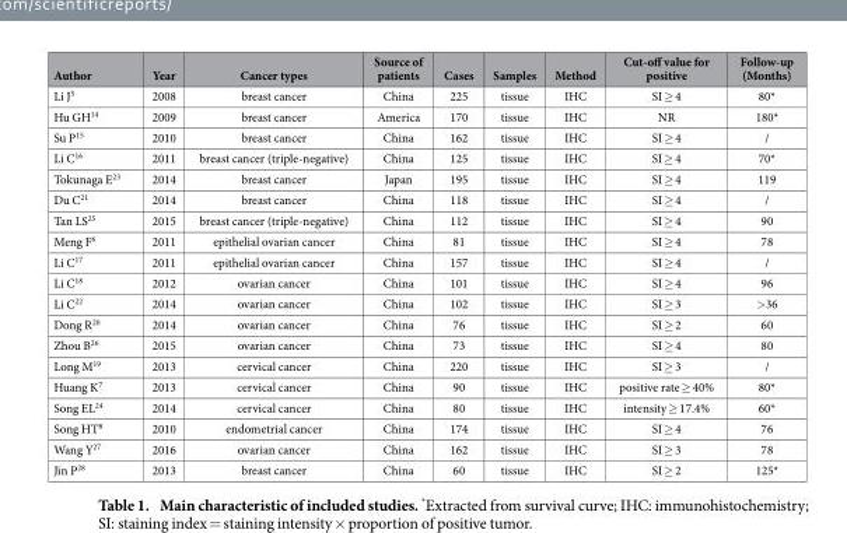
<table><thead><tr><td>Author</td><td>Year</td><td>Cancer types</td><td>Source of patients</td><td>Cases</td><td>Samples</td><td>Method</td><td>Cut-off value for positive</td><td>Follow-up (Months)</td></tr></thead><tbody><tr><td>Li J<sup>5</sup></td><td>2008</td><td>breast cancer</td><td>China</td><td>225</td><td>tissue</td><td>IHC</td><td>SI ≥ 4</td><td>80*</td></tr><tr><td>Hu GH<sup>14</sup></td><td>2009</td><td>breast cancer</td><td>America</td><td>170</td><td>tissue</td><td>IHC</td><td>NR</td><td>180*</td></tr><tr><td>Su P<sup>15</sup></td><td>2010</td><td>breast cancer</td><td>China</td><td>162</td><td>tissue</td><td>IHC</td><td>SI ≥ 4</td><td>/</td></tr><tr><td>Li C<sup>16</sup></td><td>2011</td><td>breast cancer (triple-negative)</td><td>China</td><td>125</td><td>tissue</td><td>IHC</td><td>SI ≥ 4</td><td>70*</td></tr><tr><td>Tokunaga E<sup>23</sup></td><td>2014</td><td>breast cancer</td><td>Japan</td><td>195</td><td>tissue</td><td>IHC</td><td>SI ≥ 4</td><td>119</td></tr><tr><td>Du C<sup>21</sup></td><td>2014</td><td>breast cancer</td><td>China</td><td>118</td><td>tissue</td><td>IHC</td><td>SI ≥ 4</td><td>/</td></tr><tr><td>Tan LS<sup>25</sup></td><td>2015</td><td>breast cancer (triple-negative)</td><td>China</td><td>112</td><td>tissue</td><td>IHC</td><td>SI ≥ 4</td><td>90</td></tr><tr><td>Meng F<sup>6</sup></td><td>2011</td><td>epithelial ovarian cancer</td><td>China</td><td>81</td><td>tissue</td><td>IHC</td><td>SI ≥ 4</td><td>78</td></tr><tr><td>Li C<sup>17</sup></td><td>2011</td><td>epithelial ovarian cancer</td><td>China</td><td>157</td><td>tissue</td><td>IHC</td><td>SI ≥ 4</td><td>/</td></tr><tr><td>Li C<sup>18</sup></td><td>2012</td><td>ovarian cancer</td><td>China</td><td>101</td><td>tissue</td><td>IHC</td><td>SI ≥ 4</td><td>96</td></tr><tr><td>Li C<sup>22</sup></td><td>2014</td><td>ovarian cancer</td><td>China</td><td>102</td><td>tissue</td><td>IHC</td><td>SI ≥ 3</td><td>&gt; 36</td></tr><tr><td>Dong R<sup>20</sup></td><td>2014</td><td>ovarian cancer</td><td>China</td><td>76</td><td>tissue</td><td>IHC</td><td>SI ≥ 2</td><td>60</td></tr><tr><td>Zhou B<sup>26</sup></td><td>2015</td><td>ovarian cancer</td><td>China</td><td>73</td><td>tissue</td><td>IHC</td><td>SI ≥ 4</td><td>80</td></tr><tr><td>Long M<sup>19</sup></td><td>2013</td><td>cervical cancer</td><td>China</td><td>220</td><td>tissue</td><td>IHC</td><td>SI ≥ 3</td><td>/</td></tr><tr><td>Huang K<sup>7</sup></td><td>2013</td><td>cervical cancer</td><td>China</td><td>90</td><td>tissue</td><td>IHC</td><td>positive rate ≥ 40%</td><td>80*</td></tr><tr><td>Song EL<sup>24</sup></td><td>2014</td><td>cervical cancer</td><td>China</td><td>80</td><td>tissue</td><td>IHC</td><td>intensity ≥ 17.4%</td><td>60*</td></tr><tr><td>Song HT<sup>8</sup></td><td>2010</td><td>endometrial cancer</td><td>China</td><td>174</td><td>tissue</td><td>IHC</td><td>SI ≥ 4</td><td>76</td></tr><tr><td>Wang Y<sup>27</sup></td><td>2016</td><td>ovarian cancer</td><td>China</td><td>162</td><td>tissue</td><td>IHC</td><td>SI ≥ 3</td><td>78</td></tr><tr><td>Jin P<sup>28</sup></td><td>2013</td><td>breast cancer</td><td>China</td><td>60</td><td>tissue</td><td>IHC</td><td>SI ≥ 2</td><td>125*</td></tr></tbody></table>